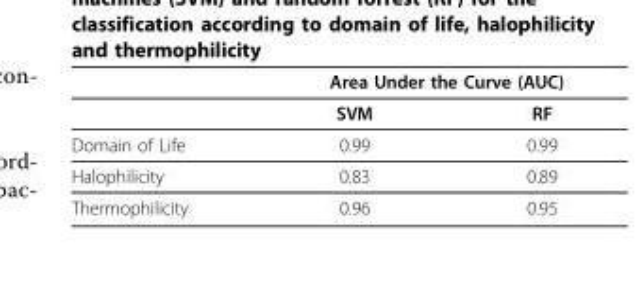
<table><thead><tr><td rowspan="2"></td><td colspan="2">Area Under the Curve (AUC)</td></tr><tr><td>SVM</td><td>RF</td></tr></thead><tbody><tr><td>Domain of Life</td><td>0.99</td><td>0.99</td></tr><tr><td>Halophilicity</td><td>0.83</td><td>0.89</td></tr><tr><td>Thermophilicity</td><td>0.96</td><td>0.95</td></tr></tbody></table>